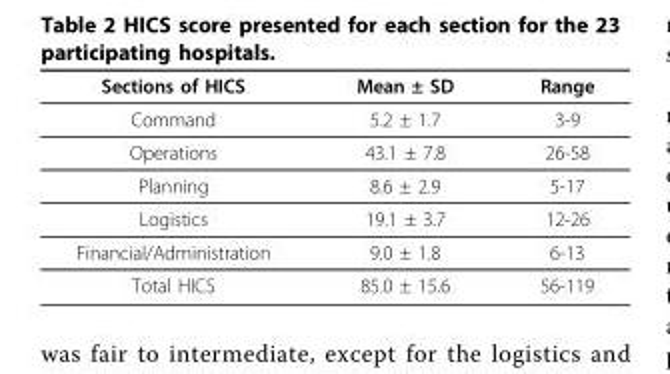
<table><thead><tr><td>Sections of HICS</td><td>Mean ± SD</td><td>Range</td></tr></thead><tbody><tr><td>Command</td><td>5.2 ± 1.7</td><td>3-9</td></tr><tr><td>Operations</td><td>43.1 ± 7.8</td><td>26-58</td></tr><tr><td>Planning</td><td>8.6 ± 2.9</td><td>5-17</td></tr><tr><td>Logistics</td><td>19.1 ± 3.7</td><td>12-26</td></tr><tr><td>Financial/Administration</td><td>9.0 ± 1.8</td><td>6-13</td></tr><tr><td>Total HICS</td><td>85.0 ± 15.6</td><td>56-119</td></tr></tbody></table>